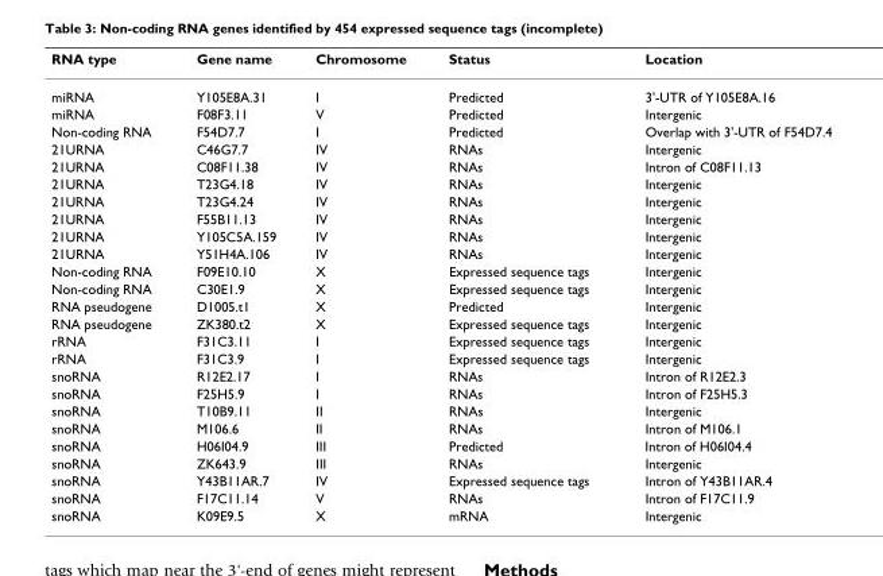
<table><thead><tr><td>RNA type</td><td>Gene name</td><td>Chromosome</td><td>Status</td><td>Location</td></tr></thead><tbody><tr><td>miRNA</td><td>Y105E8A.31</td><td>I</td><td>Predicted</td><td>3&#x27;-UTR of Y105E8A.16</td></tr><tr><td>miRNA</td><td>F08F3.11</td><td>V</td><td>Predicted</td><td>Intergenic</td></tr><tr><td>Non-coding RNA</td><td>F54D7.7</td><td>I</td><td>Predicted</td><td>Overlap with 3&#x27;-UTR of F54D7.4</td></tr><tr><td>21URNA</td><td>C46G7.7</td><td>IV</td><td>RNAs</td><td>Intergenic</td></tr><tr><td>21URNA</td><td>C08F11.38</td><td>IV</td><td>RNAs</td><td>Intron of C08F11.13</td></tr><tr><td>21URNA</td><td>T23G4.18</td><td>IV</td><td>RNAs</td><td>Intergenic</td></tr><tr><td>21URNA</td><td>T23G4.24</td><td>IV</td><td>RNAs</td><td>Intergenic</td></tr><tr><td>21URNA</td><td>F55B11.13</td><td>IV</td><td>RNAs</td><td>Intergenic</td></tr><tr><td>21URNA</td><td>Y105C5A.159</td><td>IV</td><td>RNAs</td><td>Intergenic</td></tr><tr><td>21URNA</td><td>Y51H4A.106</td><td>IV</td><td>RNAs</td><td>Intergenic</td></tr><tr><td>Non-coding RNA</td><td>F09E10.10</td><td>X</td><td>Expressed sequence tags</td><td>Intergenic</td></tr><tr><td>Non-coding RNA</td><td>C30E1.9</td><td>X</td><td>Expressed sequence tags</td><td>Intergenic</td></tr><tr><td>RNA pseudogene</td><td>D1005.t1</td><td>X</td><td>Predicted</td><td>Intergenic</td></tr><tr><td>RNA pseudogene</td><td>ZK380.t2</td><td>X</td><td>Expressed sequence tags</td><td>Intergenic</td></tr><tr><td>rRNA</td><td>F31C3.11</td><td>I</td><td>Expressed sequence tags</td><td>Intergenic</td></tr><tr><td>rRNA</td><td>F31C3.9</td><td>I</td><td>Expressed sequence tags</td><td>Intergenic</td></tr><tr><td>snoRNA</td><td>R12E2.17</td><td>I</td><td>RNAs</td><td>Intron of R12E2.3</td></tr><tr><td>snoRNA</td><td>F25H5.9</td><td>I</td><td>RNAs</td><td>Intron of F25H5.3</td></tr><tr><td>snoRNA</td><td>T10B9.11</td><td>II</td><td>RNAs</td><td>Intergenic</td></tr><tr><td>snoRNA</td><td>M106.6</td><td>II</td><td>RNAs</td><td>Intron of M106.1</td></tr><tr><td>snoRNA</td><td>H06I04.9</td><td>III</td><td>Predicted</td><td>Intron of H06I04.4</td></tr><tr><td>snoRNA</td><td>ZK643.9</td><td>III</td><td>RNAs</td><td>Intergenic</td></tr><tr><td>snoRNA</td><td>Y43B11AR.7</td><td>IV</td><td>Expressed sequence tags</td><td>Intron of Y43B11AR.4</td></tr><tr><td>snoRNA</td><td>F17C11.14</td><td>V</td><td>RNAs</td><td>Intron of F17C11.9</td></tr><tr><td>snoRNA</td><td>K09E9.5</td><td>X</td><td>mRNA</td><td>Intergenic</td></tr></tbody></table>